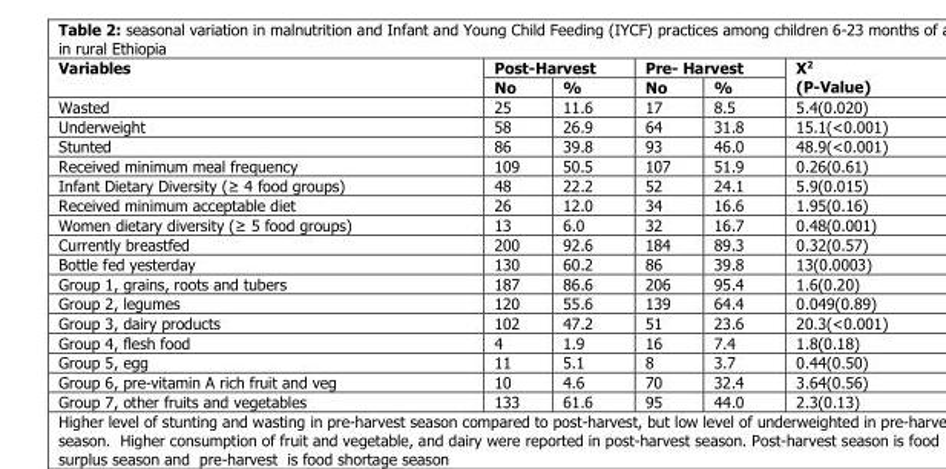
<table><thead><tr><td rowspan="2">Variables</td><td colspan="2">Post-Harvest</td><td colspan="2">Pre- Harvest</td><td rowspan="2">X<sup>2</sup> (P-Value)</td></tr><tr><td>No</td><td>%</td><td>No</td><td>%</td></tr></thead><tbody><tr><td>Wasted</td><td>25</td><td>11.6</td><td>17</td><td>8.5</td><td>5.4(0.020)</td></tr><tr><td>Underweight</td><td>58</td><td>26.9</td><td>64</td><td>31.8</td><td>15.1(&lt;0.001)</td></tr><tr><td>Stunted</td><td>86</td><td>39.8</td><td>93</td><td>46.0</td><td>48.9(&lt;0.001)</td></tr><tr><td>Received minimum meal frequency</td><td>109</td><td>50.5</td><td>107</td><td>51.9</td><td>0.26(0.61)</td></tr><tr><td>Infant Dietary Diversity (≥ 4 food groups)</td><td>48</td><td>22.2</td><td>52</td><td>24.1</td><td>5.9(0.015)</td></tr><tr><td>Received minimum acceptable diet</td><td>26</td><td>12.0</td><td>34</td><td>16.6</td><td>1.95(0.16)</td></tr><tr><td>Women dietary diversity (≥ 5 food groups)</td><td>13</td><td>6.0</td><td>32</td><td>16.7</td><td>0.48(0.001)</td></tr><tr><td>Currently breastfed</td><td>200</td><td>92.6</td><td>184</td><td>89.3</td><td>0.32(0.57)</td></tr><tr><td>Bottle fed yesterday</td><td>130</td><td>60.2</td><td>86</td><td>39.8</td><td>13(0.0003)</td></tr><tr><td>Group 1, grains, roots and tubers</td><td>187</td><td>86.6</td><td>206</td><td>95.4</td><td>1.6(0.20)</td></tr><tr><td>Group 2, legumes</td><td>120</td><td>55.6</td><td>139</td><td>64.4</td><td>0.049(0.89)</td></tr><tr><td>Group 3, dairy products</td><td>102</td><td>47.2</td><td>51</td><td>23.6</td><td>20.3(&lt;0.001)</td></tr><tr><td>Group 4, flesh food</td><td>4</td><td>1.9</td><td>16</td><td>7.4</td><td>1.8(0.18)</td></tr><tr><td>Group 5, egg</td><td>11</td><td>5.1</td><td>8</td><td>3.7</td><td>0.44(0.50)</td></tr><tr><td>Group 6, pre-vitamin A rich fruit and veg</td><td>10</td><td>4.6</td><td>70</td><td>32.4</td><td>3.64(0.56)</td></tr><tr><td>Group 7, other fruits and vegetables</td><td>133</td><td>61.6</td><td>95</td><td>44.0</td><td>2.3(0.13)</td></tr></tbody></table>